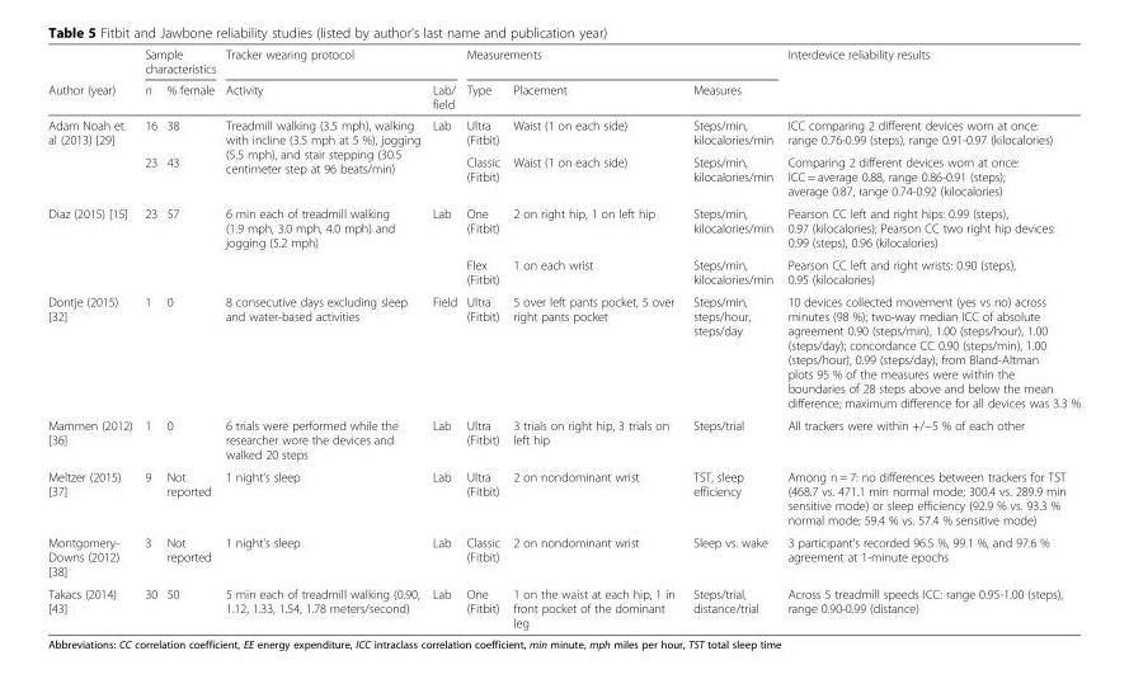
<table><thead><tr><td rowspan="2">Author (year)</td><td colspan="2">Sample characteristics</td><td colspan="2">Tracker wearing protocol</td><td colspan="3">Measurements</td><td rowspan="2">Interdevice reliability results</td></tr><tr><td>n</td><td>% female</td><td>Activity</td><td>Lab/ field</td><td>Type</td><td>Placement</td><td>Measures</td></tr></thead><tbody><tr><td rowspan="2">Adam Noah et. al (2013) [29]</td><td>16</td><td>38</td><td rowspan="2">Treadmill walking (3.5 mph), walking with incline (3.5 mph at 5 %), jogging (5.5 mph), and stair stepping (30.5 centimeter step at 96 beats/min)</td><td rowspan="2">Lab</td><td>Ultra (Fitbit)</td><td>Waist (1 on each side)</td><td>Steps/min, kilocalories/min</td><td>ICC comparing 2 different devices worn at once: range 0.76-0.99 (steps), range 0.91-0.97 (kilocalories)</td></tr><tr><td>23</td><td>43</td><td>Classic (Fitbit)</td><td>Waist (1 on each side)</td><td>Steps/min, kilocalories/min</td><td>Comparing 2 different devices worn at once: ICC = average 0.88, range 0.86-0.91 (steps); average 0.87, range 0.74-0.92 (kilocalories)</td></tr><tr><td rowspan="2">Diaz (2015) [15]</td><td rowspan="2">23</td><td rowspan="2">57</td><td rowspan="2">6 min each of treadmill walking (1.9 mph, 3.0 mph, 4.0 mph) and jogging (5.2 mph)</td><td rowspan="2">Lab</td><td>One (Fitbit)</td><td>2 on right hip, 1 on left hip</td><td>Steps/min, kilocalories/min</td><td>Pearson CC left and right hips: 0.99 (steps), 0.97 (kilocalories); Pearson CC two right hip devices: 0.99 (steps), 0.96 (kilocalories)</td></tr><tr><td>Flex (Fitbit)</td><td>1 on each wrist</td><td>Steps/min, kilocalories/min</td><td>Pearson CC left and right wrists: 0.90 (steps), 0.95 (kilocalories)</td></tr><tr><td>Dontje (2015) [32]</td><td>1</td><td>0</td><td>8 consecutive days excluding sleep and water-based activities</td><td>Field</td><td>Ultra (Fitbit)</td><td>5 over left pants pocket, 5 over right pants pocket</td><td>Steps/min, steps/hour, steps/day</td><td>10 devices collected movement (yes vs no) across minutes (98 %); two-way median ICC of absolute agreement 0.90 (steps/min), 1.00 (steps/hour), 1.00 (steps/day); concordance CC 0.90 (steps/min), 1.00 (steps/hour), 0.99 (steps/day); from Bland-Altman plots 95 % of the measures were within the boundaries of 28 steps above and below the mean difference; maximum difference for all devices was 3.3 %</td></tr><tr><td>Mammen (2012) [36]</td><td>1</td><td>0</td><td>6 trials were performed while the researcher wore the devices and walked 20 steps</td><td>Lab</td><td>Ultra (Fitbit)</td><td>3 trials on right hip, 3 trials on left hip</td><td>Steps/trial</td><td>All trackers were within +/−5 % of each other</td></tr><tr><td>Meltzer (2015) [37]</td><td>9</td><td>Not reported</td><td>1 night&#x27;s sleep</td><td>Lab</td><td>Ultra (Fitbit)</td><td>2 on nondominant wrist</td><td>TST, sleep efficiency</td><td>Among n = 7: no differences between trackers for TST (468.7 vs. 471.1 min normal mode; 300.4 vs. 289.9 min sensitive mode) or sleep efficiency (92.9 % vs. 93.3 % normal mode; 59.4 % vs. 57.4 % sensitive mode)</td></tr><tr><td>Montgomery- Downs (2012) [38]</td><td>3</td><td>Not reported</td><td>1 night&#x27;s sleep</td><td>Lab</td><td>Classic (Fitbit)</td><td>2 on nondominant wrist</td><td>Sleep vs. wake</td><td>3 participant&#x27;s recorded 96.5 %, 99.1 %, and 97.6 % agreement at 1-minute epochs</td></tr><tr><td>Takacs (2014) [43]</td><td>30</td><td>50</td><td>5 min each of treadmill walking (0.90, 1.12, 1.33, 1.54, 1.78 meters/second)</td><td>Lab</td><td>One (Fitbit)</td><td>1 on the waist at each hip, 1 in front pocket of the dominant leg</td><td>Steps/trial, distance/trial</td><td>Across 5 treadmill speeds ICC: range 0.95-1.00 (steps), range 0.90-0.99 (distance)</td></tr></tbody></table>